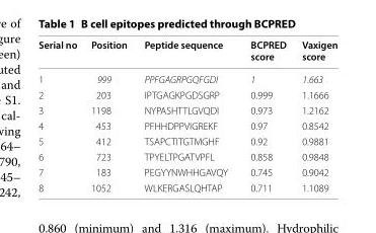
<table><thead><tr><td>Serial no</td><td>Position</td><td>Peptide sequence</td><td>BCPRED score</td><td>Vaxigen score</td></tr></thead><tbody><tr><td>1</td><td>999</td><td>PPFGAGRPGQFGDI</td><td>1</td><td>1.663</td></tr><tr><td>2</td><td>203</td><td>IPTGAGKPGDSGRP</td><td>0.999</td><td>1.1666</td></tr><tr><td>3</td><td>1198</td><td>NYPASHTTLGVQDI</td><td>0.973</td><td>1.2162</td></tr><tr><td>4</td><td>453</td><td>PFHHDPPVIGREKF</td><td>0.97</td><td>0.8542</td></tr><tr><td>5</td><td>412</td><td>TSAPCTITGTMGHF</td><td>0.92</td><td>0.9881</td></tr><tr><td>6</td><td>723</td><td>TPYELTPGATVPFL</td><td>0.858</td><td>0.9848</td></tr><tr><td>7</td><td>183</td><td>PEGYYNWHHGAVQY</td><td>0.745</td><td>0.9042</td></tr><tr><td>8</td><td>1052</td><td>WLKERGASLQHTAP</td><td>0.711</td><td>1.1089</td></tr></tbody></table>